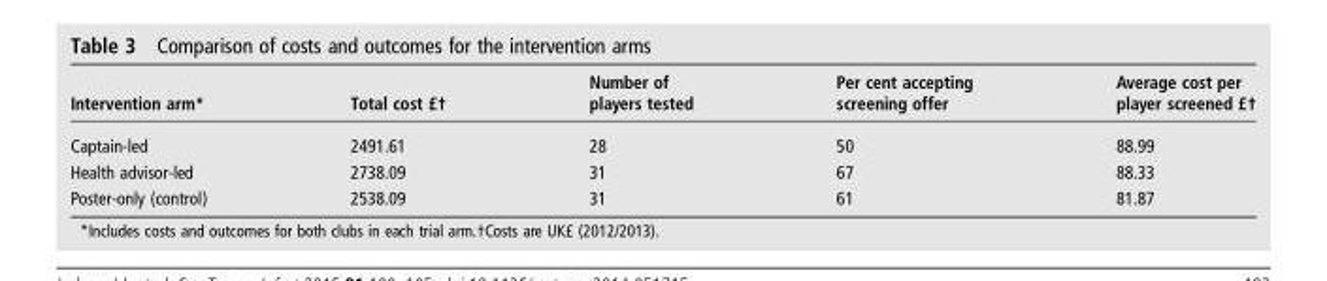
<table><thead><tr><td>Intervention arm*</td><td>Total cost £†</td><td>Number of players tested</td><td>Per cent accepting screening offer</td><td>Average cost per player screened £†</td></tr></thead><tbody><tr><td>Captain-led</td><td>2491.61</td><td>28</td><td>50</td><td>88.99</td></tr><tr><td>Health advisor-led</td><td>2738.09</td><td>31</td><td>67</td><td>88.33</td></tr><tr><td>Poster-only (control)</td><td>2538.09</td><td>31</td><td>61</td><td>81.87</td></tr></tbody></table>